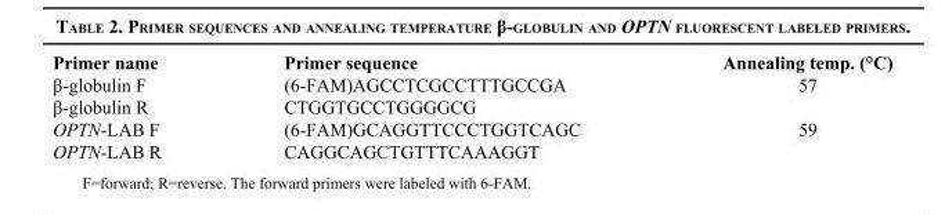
<table><thead><tr><td>Primer name</td><td>Primer sequence</td><td>Annealing temp. (°C)</td></tr></thead><tbody><tr><td>β-globulin F</td><td>(6-FAM)AGCCTCGCCTTTGCCGA</td><td>57</td></tr><tr><td>β-globulin R</td><td>CTGGTGCCTGGGGCG</td><td></td></tr><tr><td>OPTN-LAB F</td><td>(6-FAM)GCAGGTTCCCTGGTCAGC</td><td>59</td></tr><tr><td>OPTN-LAB R</td><td>CAGGCAGCTGTTTCAAAGGT</td><td></td></tr></tbody></table>